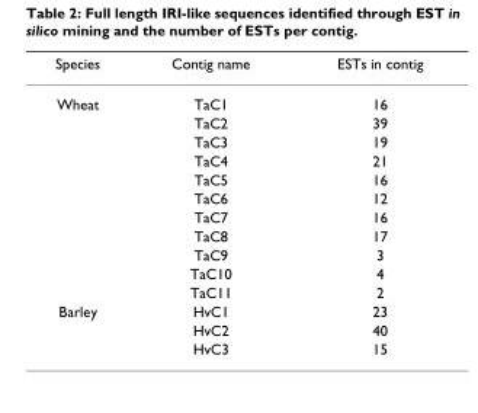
<table><thead><tr><td>Species</td><td>Contig name</td><td>ESTs in contig</td></tr></thead><tbody><tr><td rowspan="11">Wheat</td><td>TaC1</td><td>16</td></tr><tr><td>TaC2</td><td>39</td></tr><tr><td>TaC3</td><td>19</td></tr><tr><td>TaC4</td><td>21</td></tr><tr><td>TaC5</td><td>16</td></tr><tr><td>TaC6</td><td>12</td></tr><tr><td>TaC7</td><td>16</td></tr><tr><td>TaC8</td><td>17</td></tr><tr><td>TaC9</td><td>3</td></tr><tr><td>TaC10</td><td>4</td></tr><tr><td>TaC11</td><td>2</td></tr><tr><td rowspan="3">Barley</td><td>HvC1</td><td>23</td></tr><tr><td>HvC2</td><td>40</td></tr><tr><td>HvC3</td><td>15</td></tr></tbody></table>